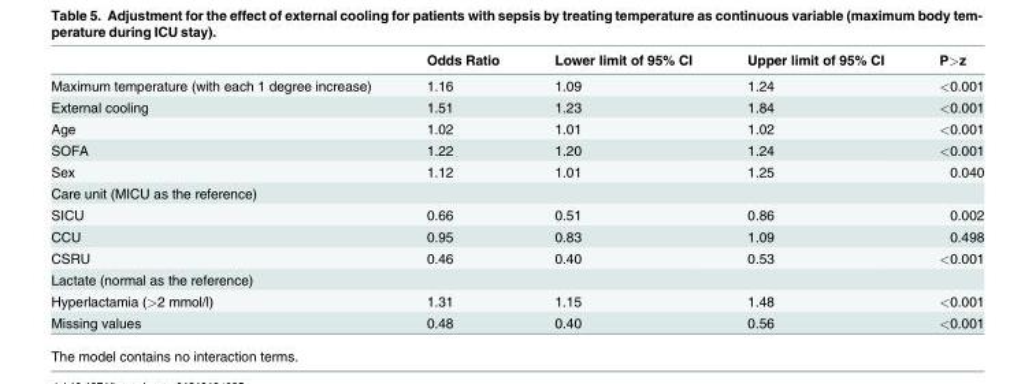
<table><thead><tr><td></td><td>Odds Ratio</td><td>Lower limit of 95% CI</td><td>Upper limit of 95% CI</td><td>P&gt;z</td></tr></thead><tbody><tr><td>Maximum temperature (with each 1 degree increase)</td><td>1.16</td><td>1.09</td><td>1.24</td><td>&lt;0.001</td></tr><tr><td>External cooling</td><td>1.51</td><td>1.23</td><td>1.84</td><td>&lt;0.001</td></tr><tr><td>Age</td><td>1.02</td><td>1.01</td><td>1.02</td><td>&lt;0.001</td></tr><tr><td>SOFA</td><td>1.22</td><td>1.20</td><td>1.24</td><td>&lt;0.001</td></tr><tr><td>Sex</td><td>1.12</td><td>1.01</td><td>1.25</td><td>0.040</td></tr><tr><td colspan="5">Care unit (MICU as the reference)</td></tr><tr><td>SICU</td><td>0.66</td><td>0.51</td><td>0.86</td><td>0.002</td></tr><tr><td>CCU</td><td>0.95</td><td>0.83</td><td>1.09</td><td>0.498</td></tr><tr><td>CSRU</td><td>0.46</td><td>0.40</td><td>0.53</td><td>&lt;0.001</td></tr><tr><td colspan="5">Lactate (normal as the reference)</td></tr><tr><td>Hyperlactamia (&gt;2 mmol/l)</td><td>1.31</td><td>1.15</td><td>1.48</td><td>&lt;0.001</td></tr><tr><td>Missing values</td><td>0.48</td><td>0.40</td><td>0.56</td><td>&lt;0.001</td></tr></tbody></table>